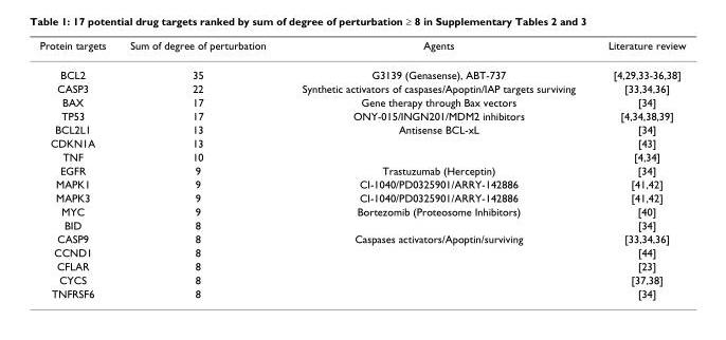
<table><thead><tr><td>Protein targets</td><td>Sum of degree of perturbation</td><td>Agents</td><td>Literature review</td></tr></thead><tbody><tr><td>BCL2</td><td>35</td><td>G3139 (Genasense), ABT-737</td><td>[4,29,33-36,38]</td></tr><tr><td>CASP3</td><td>22</td><td>Synthetic activators of caspases/Apoptin/IAP targets surviving</td><td>[33,34,36]</td></tr><tr><td>BAX</td><td>17</td><td>Gene therapy through Bax vectors</td><td>[34]</td></tr><tr><td>TP53</td><td>17</td><td>ONY-015/INGN201/MDM2 inhibitors</td><td>[4,34,38,39]</td></tr><tr><td>BCL2L1</td><td>13</td><td>Antisense BCL-xL</td><td>[34]</td></tr><tr><td>CDKN1A</td><td>13</td><td></td><td>[43]</td></tr><tr><td>TNF</td><td>10</td><td></td><td>[4,34]</td></tr><tr><td>EGFR</td><td>9</td><td>Trastuzumab (Herceptin)</td><td>[34]</td></tr><tr><td>MAPK1</td><td>9</td><td>CI-1040/PD0325901/ARRY-142886</td><td>[41,42]</td></tr><tr><td>MAPK3</td><td>9</td><td>CI-1040/PD0325901/ARRY-142886</td><td>[41,42]</td></tr><tr><td>MYC</td><td>9</td><td>Bortezomib (Proteosome Inhibitors)</td><td>[40]</td></tr><tr><td>BID</td><td>8</td><td></td><td>[34]</td></tr><tr><td>CASP9</td><td>8</td><td>Caspases activators/Apoptin/surviving</td><td>[33,34,36]</td></tr><tr><td>CCND1</td><td>8</td><td></td><td>[44]</td></tr><tr><td>CFLAR</td><td>8</td><td></td><td>[23]</td></tr><tr><td>CYCS</td><td>8</td><td></td><td>[37,38]</td></tr><tr><td>TNFRSF6</td><td>8</td><td></td><td>[34]</td></tr></tbody></table>